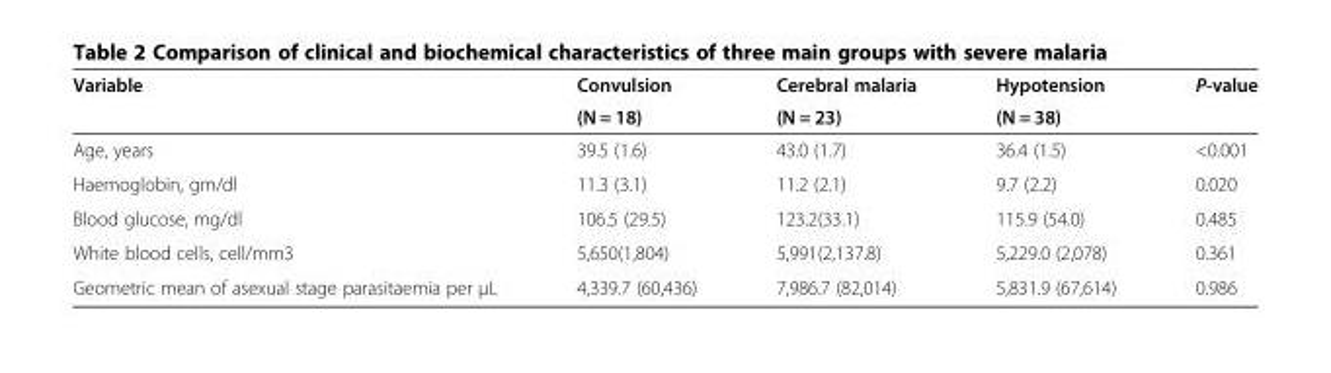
<table><thead><tr><td rowspan="2">Variable</td><td rowspan="2">Convulsion (N = 18)</td><td rowspan="2">Cerebral malaria (N = 23)</td><td rowspan="2">Hypotension (N = 38)</td><td rowspan="2">P-value</td></tr><tr></tr></thead><tbody><tr><td>Age, years</td><td>39.5 (1.6)</td><td>43.0 (1.7)</td><td>36.4 (1.5)</td><td>&lt;0.001</td></tr><tr><td>Haemoglobin, gm/dl</td><td>11.3 (3.1)</td><td>11.2 (2.1)</td><td>9.7 (2.2)</td><td>0.020</td></tr><tr><td>Blood glucose, mg/dl</td><td>106.5 (29.5)</td><td>123.2(33.1)</td><td>115.9 (54.0)</td><td>0.485</td></tr><tr><td>White blood cells, cell/mm3</td><td>5,650(1,804)</td><td>5,991(2,137.8)</td><td>5,229.0 (2,078)</td><td>0.361</td></tr><tr><td>Geometric mean of asexual stage parasitaemia per μL</td><td>4,339.7 (60,436)</td><td>7,986.7 (82,014)</td><td>5,831.9 (67,614)</td><td>0.986</td></tr></tbody></table>